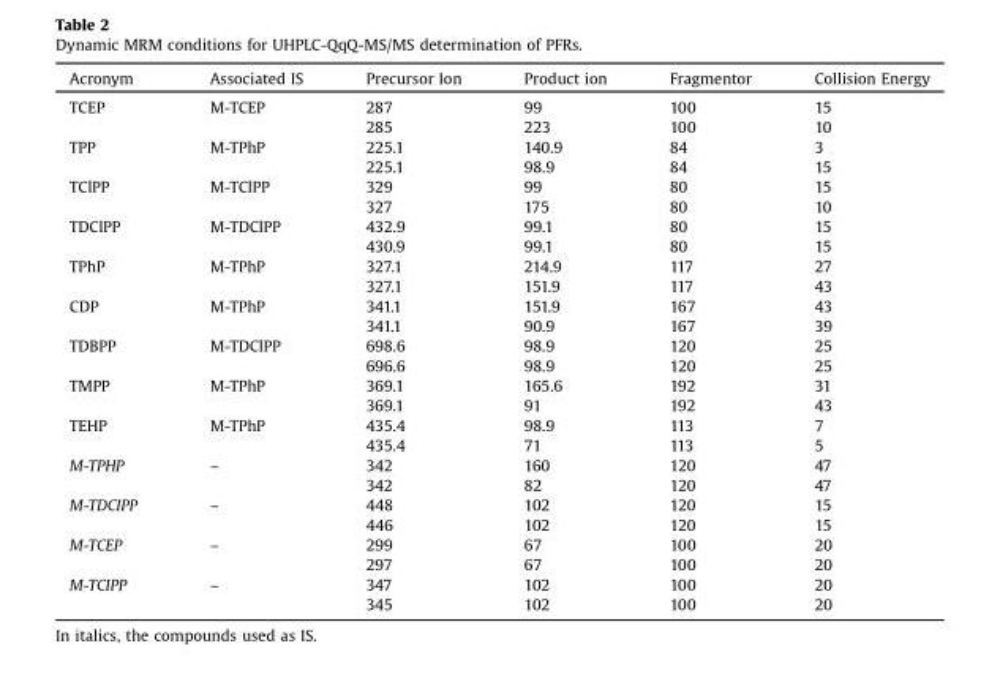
<table><thead><tr><td>Acronym</td><td>Associated IS</td><td>Precursor Ion</td><td>Product ion</td><td>Fragmentor</td><td>Collision Energy</td></tr></thead><tbody><tr><td rowspan="2">TCEP</td><td rowspan="2">M-TCEP</td><td>287</td><td>99</td><td>100</td><td>15</td></tr><tr><td>285</td><td>223</td><td>100</td><td>10</td></tr><tr><td rowspan="2">TPP</td><td rowspan="2">M-TPhP</td><td>225.1</td><td>140.9</td><td>84</td><td>3</td></tr><tr><td>225.1</td><td>98.9</td><td>84</td><td>15</td></tr><tr><td rowspan="2">TClPP</td><td rowspan="2">M-TClPP</td><td>329</td><td>99</td><td>80</td><td>15</td></tr><tr><td>327</td><td>175</td><td>80</td><td>10</td></tr><tr><td rowspan="2">TDClPP</td><td rowspan="2">M-TDClPP</td><td>432.9</td><td>99.1</td><td>80</td><td>15</td></tr><tr><td>430.9</td><td>99.1</td><td>80</td><td>15</td></tr><tr><td rowspan="2">TPhP</td><td rowspan="2">M-TPhP</td><td>327.1</td><td>214.9</td><td>117</td><td>27</td></tr><tr><td>327.1</td><td>151.9</td><td>117</td><td>43</td></tr><tr><td rowspan="2">CDP</td><td rowspan="2">M-TPhP</td><td>341.1</td><td>151.9</td><td>167</td><td>43</td></tr><tr><td>341.1</td><td>90.9</td><td>167</td><td>39</td></tr><tr><td rowspan="2">TDBPP</td><td rowspan="2">M-TDClPP</td><td>698.6</td><td>98.9</td><td>120</td><td>25</td></tr><tr><td>696.6</td><td>98.9</td><td>120</td><td>25</td></tr><tr><td rowspan="2">TMPP</td><td rowspan="2">M-TPhP</td><td>369.1</td><td>165.6</td><td>192</td><td>31</td></tr><tr><td>369.1</td><td>91</td><td>192</td><td>43</td></tr><tr><td rowspan="2">TEHP</td><td rowspan="2">M-TPhP</td><td>435.4</td><td>98.9</td><td>113</td><td>7</td></tr><tr><td>435.4</td><td>71</td><td>113</td><td>5</td></tr><tr><td rowspan="2">M-TPHP</td><td rowspan="2">–</td><td>342</td><td>160</td><td>120</td><td>47</td></tr><tr><td>342</td><td>82</td><td>120</td><td>47</td></tr><tr><td rowspan="2">M-TDCIPP</td><td rowspan="2">–</td><td>448</td><td>102</td><td>120</td><td>15</td></tr><tr><td>446</td><td>102</td><td>120</td><td>15</td></tr><tr><td rowspan="2">M-TCEP</td><td rowspan="2">–</td><td>299</td><td>67</td><td>100</td><td>20</td></tr><tr><td>297</td><td>67</td><td>100</td><td>20</td></tr><tr><td rowspan="2">M-TCIPP</td><td rowspan="2">–</td><td>347</td><td>102</td><td>100</td><td>20</td></tr><tr><td>345</td><td>102</td><td>100</td><td>20</td></tr></tbody></table>